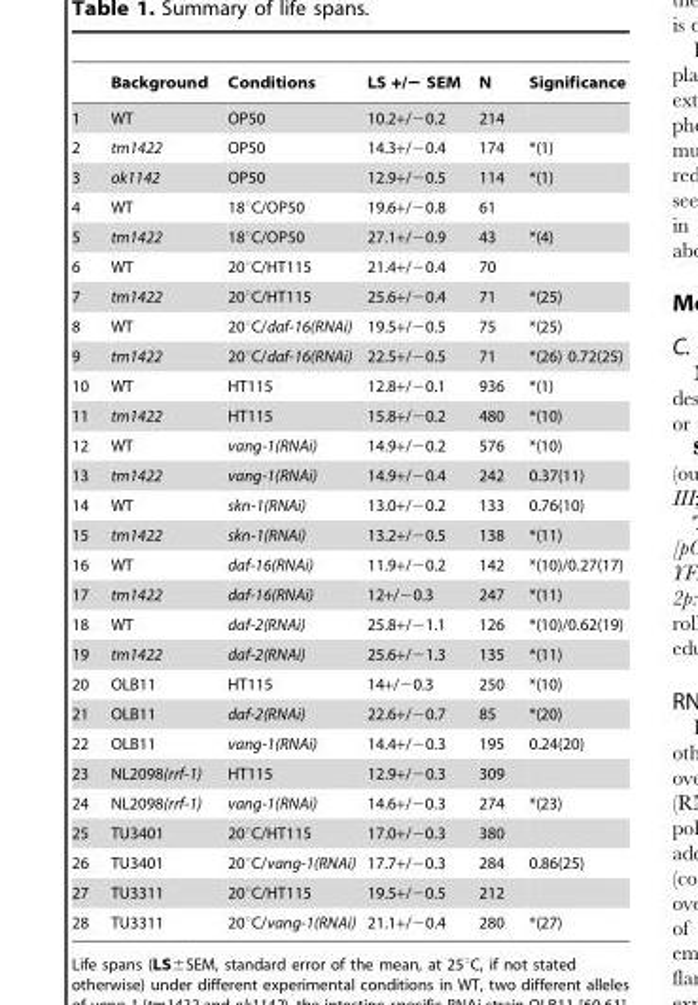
<table><thead><tr><td></td><td>Background</td><td>Conditions</td><td>LS +/− SEM</td><td>N</td><td>Significance</td></tr></thead><tbody><tr><td>1</td><td>WT</td><td>OP50</td><td>10.2+/−0.2</td><td>214</td><td></td></tr><tr><td>2</td><td>tm1422</td><td>OP50</td><td>14.3+/−0.4</td><td>174</td><td>*(1)</td></tr><tr><td>3</td><td>ok1142</td><td>OP50</td><td>12.9+/−0.5</td><td>114</td><td>*(1)</td></tr><tr><td>4</td><td>WT</td><td>18°C/OP50</td><td>19.6+/−0.8</td><td>61</td><td></td></tr><tr><td>5</td><td>tm1422</td><td>18°C/OP50</td><td>27.1+/−0.9</td><td>43</td><td>*(4)</td></tr><tr><td>6</td><td>WT</td><td>20°C/HT115</td><td>21.4+/−0.4</td><td>70</td><td></td></tr><tr><td>7</td><td>tm1422</td><td>20°C/HT115</td><td>25.6+/−0.4</td><td>71</td><td>*(25)</td></tr><tr><td>8</td><td>WT</td><td>20°C/daf-16(RNAi)</td><td>19.5+/−0.5</td><td>75</td><td>*(25)</td></tr><tr><td>9</td><td>tm1422</td><td>20°C/daf-16(RNAi)</td><td>22.5+/−0.5</td><td>71</td><td>*(26) 0.72(25)</td></tr><tr><td>10</td><td>WT</td><td>HT115</td><td>12.8+/−0.1</td><td>936</td><td>*(1)</td></tr><tr><td>11</td><td>tm1422</td><td>HT115</td><td>15.8+/−0.2</td><td>480</td><td>*(10)</td></tr><tr><td>12</td><td>WT</td><td>vang-1(RNAi)</td><td>14.9+/−0.2</td><td>576</td><td>*(10)</td></tr><tr><td>13</td><td>tm1422</td><td>vang-1(RNAi)</td><td>14.9+/−0.4</td><td>242</td><td>0.37(11)</td></tr><tr><td>14</td><td>WT</td><td>skn-1(RNAi)</td><td>13.0+/−0.2</td><td>133</td><td>0.76(10)</td></tr><tr><td>15</td><td>tm1422</td><td>skn-1(RNAi)</td><td>13.2+/−0.5</td><td>138</td><td>*(11)</td></tr><tr><td>16</td><td>WT</td><td>daf-16(RNAi)</td><td>11.9+/−0.2</td><td>142</td><td>*(10)/0.27(17)</td></tr><tr><td>17</td><td>tm1422</td><td>daf-16(RNAi)</td><td>12+/−0.3</td><td>247</td><td>*(11)</td></tr><tr><td>18</td><td>WT</td><td>daf-2(RNAi)</td><td>25.8+/−1.1</td><td>126</td><td>*(10)/0.62(19)</td></tr><tr><td>19</td><td>tm1422</td><td>daf-2(RNAi)</td><td>25.6+/−1.3</td><td>135</td><td>*(11)</td></tr><tr><td>20</td><td>OLB11</td><td>HT115</td><td>14+/−0.3</td><td>250</td><td>*(10)</td></tr><tr><td>21</td><td>OLB11</td><td>daf-2(RNAi)</td><td>22.6+/−0.7</td><td>85</td><td>*(20)</td></tr><tr><td>22</td><td>OLB11</td><td>vang-1(RNAi)</td><td>14.4+/−0.3</td><td>195</td><td>0.24(20)</td></tr><tr><td>23</td><td>NL2098(rrf-1)</td><td>HT115</td><td>12.9+/−0.3</td><td>309</td><td></td></tr><tr><td>24</td><td>NL2098(rrf-1)</td><td>vang-1(RNAi)</td><td>14.6+/−0.3</td><td>274</td><td>*(23)</td></tr><tr><td>25</td><td>TU3401</td><td>20°C/HT115</td><td>17.0+/−0.3</td><td>380</td><td></td></tr><tr><td>26</td><td>TU3401</td><td>20°C/vang-1(RNAi)</td><td>17.7+/−0.3</td><td>284</td><td>0.86(25)</td></tr><tr><td>27</td><td>TU3311</td><td>20°C/HT115</td><td>19.5+/−0.5</td><td>212</td><td></td></tr><tr><td>28</td><td>TU3311</td><td>20°C/vang-1(RNAi)</td><td>21.1+/−0.4</td><td>280</td><td>*(27)</td></tr></tbody></table>